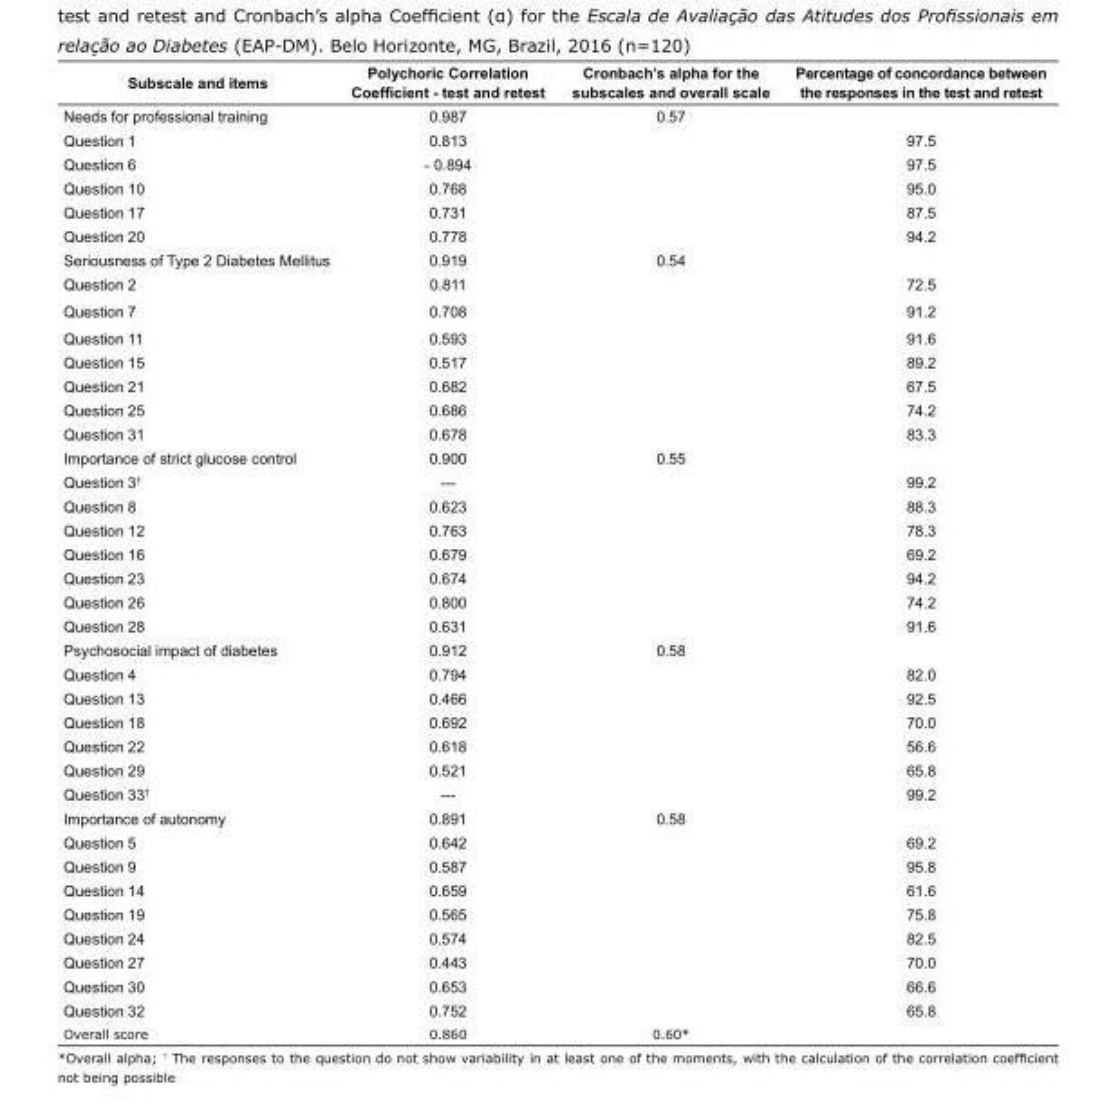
<table><tbody><tr><td>Subscale and items</td><td>Polychoric Correlation Coefficient - test and retest</td><td>Cronbach’s alpha for the subscales and overall scale</td><td>Percentage of concordance between the responses in the test and retest</td></tr><tr><td>Needs for professional training</td><td>0.987</td><td>0.57</td><td></td></tr><tr><td>Question 1</td><td>0.813</td><td></td><td>97.5</td></tr><tr><td>Question 6</td><td>- 0.894</td><td></td><td>97.5</td></tr><tr><td>Question 10</td><td>0.768</td><td></td><td>95.0</td></tr><tr><td>Question 17</td><td>0.731</td><td></td><td>87.5</td></tr><tr><td>Question 20</td><td>0.778</td><td></td><td>94.2</td></tr><tr><td>Seriousness of Type 2 Diabetes Mellitus</td><td>0.919</td><td>0.54</td><td></td></tr><tr><td>Question 2</td><td>0.811</td><td></td><td>72.5</td></tr><tr><td>Question 7</td><td>0.708</td><td></td><td>91.2</td></tr><tr><td>Question 11</td><td>0.593</td><td></td><td>91.6</td></tr><tr><td>Question 15</td><td>0.517</td><td></td><td>89.2</td></tr><tr><td>Question 21</td><td>0.682</td><td></td><td>67.5</td></tr><tr><td>Question 25</td><td>0.686</td><td></td><td>74.2</td></tr><tr><td>Question 31</td><td>0.678</td><td></td><td>83.3</td></tr><tr><td>Importance of strict glucose control</td><td>0.900</td><td>0.55</td><td></td></tr><tr><td>Question 3<sup>†</sup></td><td>---</td><td></td><td>99.2</td></tr><tr><td>Question 8</td><td>0.623</td><td></td><td>88.3</td></tr><tr><td>Question 12</td><td>0.763</td><td></td><td>78.3</td></tr><tr><td>Question 16</td><td>0.679</td><td></td><td>69.2</td></tr><tr><td>Question 23</td><td>0.674</td><td></td><td>94.2</td></tr><tr><td>Question 26</td><td>0.800</td><td></td><td>74.2</td></tr><tr><td>Question 28</td><td>0.631</td><td></td><td>91.6</td></tr><tr><td>Psychosocial impact of diabetes</td><td>0.912</td><td>0.58</td><td></td></tr><tr><td>Question 4</td><td>0.794</td><td></td><td>82.0</td></tr><tr><td>Question 13</td><td>0.466</td><td></td><td>92.5</td></tr><tr><td>Question 18</td><td>0.692</td><td></td><td>70.0</td></tr><tr><td>Question 22</td><td>0.618</td><td></td><td>56.6</td></tr><tr><td>Question 29</td><td>0.521</td><td></td><td>65.8</td></tr><tr><td>Question 33<sup>†</sup></td><td>---</td><td></td><td>99.2</td></tr><tr><td>Importance of autonomy</td><td>0.891</td><td>0.58</td><td></td></tr><tr><td>Question 5</td><td>0.642</td><td></td><td>69.2</td></tr><tr><td>Question 9</td><td>0.587</td><td></td><td>95.8</td></tr><tr><td>Question 14</td><td>0.659</td><td></td><td>61.6</td></tr><tr><td>Question 19</td><td>0.565</td><td></td><td>75.8</td></tr><tr><td>Question 24</td><td>0.574</td><td></td><td>82.5</td></tr><tr><td>Question 27</td><td>0.443</td><td></td><td>70.0</td></tr><tr><td>Question 30</td><td>0.653</td><td></td><td>66.6</td></tr><tr><td>Question 32</td><td>0.752</td><td></td><td>65.8</td></tr><tr><td>Overall score</td><td>0.860</td><td>0.60*</td><td></td></tr></tbody></table>